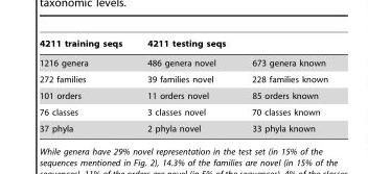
<table><thead><tr><td rowspan="2">4211 training seqs 1216 genera</td><td colspan="2">4211 testing seqs</td></tr><tr><td>486 genera novel</td><td>673 genera known</td></tr></thead><tbody><tr><td>272 families</td><td>39 families novel</td><td>228 families known</td></tr><tr><td>101 orders</td><td>11 orders novel</td><td>85 orders known</td></tr><tr><td>76 classes</td><td>3 classes novel</td><td>70 classes known</td></tr><tr><td>37 phyla</td><td>2 phyla novel</td><td>33 phyla known</td></tr></tbody></table>